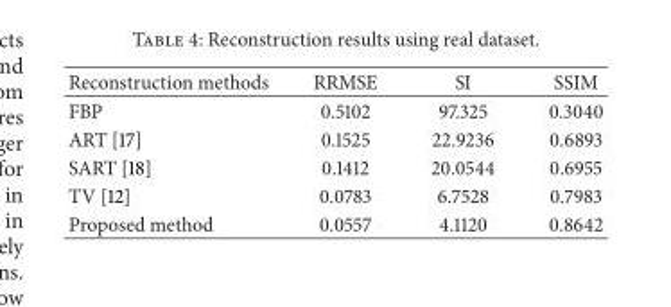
<table><thead><tr><td>Reconstruction methods</td><td>RRMSE</td><td>SI</td><td>SSIM</td></tr></thead><tbody><tr><td>FBP</td><td>0.5102</td><td>97.325</td><td>0.3040</td></tr><tr><td>ART [17]</td><td>0.1525</td><td>22.9236</td><td>0.6893</td></tr><tr><td>SART [18]</td><td>0.1412</td><td>20.0544</td><td>0.6955</td></tr><tr><td>TV [12]</td><td>0.0783</td><td>6.7528</td><td>0.7983</td></tr><tr><td>Proposed method</td><td>0.0557</td><td>4.1120</td><td>0.8642</td></tr></tbody></table>